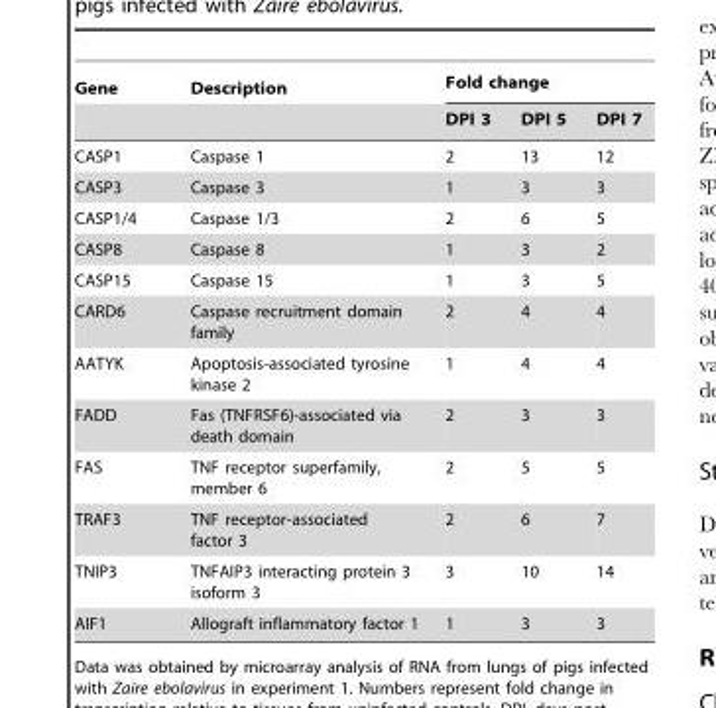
<table><thead><tr><td rowspan="2">Gene</td><td rowspan="2">Description</td><td colspan="3">Fold change</td></tr><tr><td>DPI 3</td><td>DPI 5</td><td>DPI 7</td></tr></thead><tbody><tr><td>CASP1</td><td>Caspase 1</td><td>2</td><td>13</td><td>12</td></tr><tr><td>CASP3</td><td>Caspase 3</td><td>1</td><td>3</td><td>3</td></tr><tr><td>CASP1/4</td><td>Caspase 1/3</td><td>2</td><td>6</td><td>5</td></tr><tr><td>CASP8</td><td>Caspase 8</td><td>1</td><td>3</td><td>2</td></tr><tr><td>CASP15</td><td>Caspase 15</td><td>1</td><td>3</td><td>5</td></tr><tr><td>CARD6</td><td>Caspase recruitment domain family</td><td>2</td><td>4</td><td>4</td></tr><tr><td>AATYK</td><td>Apoptosis-associated tyrosine kinase 2</td><td>1</td><td>4</td><td>4</td></tr><tr><td>FADD</td><td>Fas (TNFRSF6)-associated via death domain</td><td>2</td><td>3</td><td>3</td></tr><tr><td>FAS</td><td>TNF receptor superfamily, member 6</td><td>2</td><td>5</td><td>5</td></tr><tr><td>TRAF3</td><td>TNF receptor-associated factor 3</td><td>2</td><td>6</td><td>7</td></tr><tr><td>TNIP3</td><td>TNFAIP3 interacting protein 3 isoform 3</td><td>3</td><td>10</td><td>14</td></tr><tr><td>AIF1</td><td>Allograft inflammatory factor 1</td><td>1</td><td>3</td><td>3</td></tr></tbody></table>